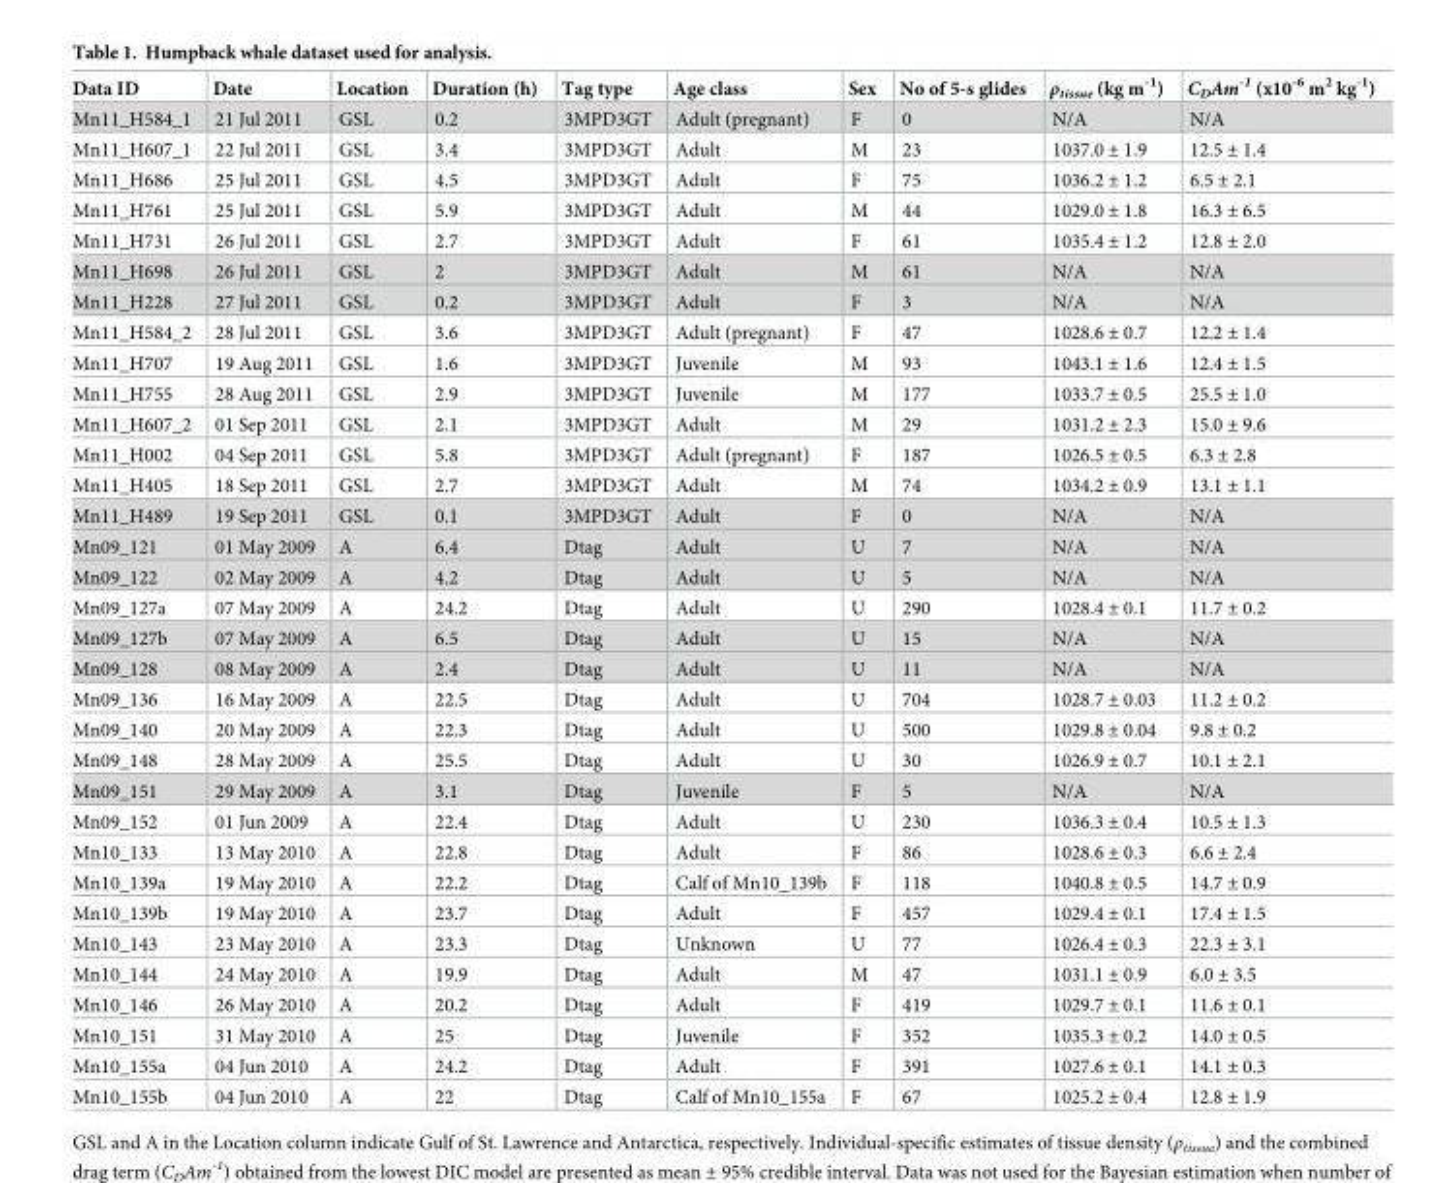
<table><thead><tr><td>Data ID</td><td>Date</td><td>Location</td><td>Duration (h)</td><td>Tag type</td><td>Age class</td><td>Sex</td><td>No of 5-s glides</td><td>ρ<sub>tissue</sub> (kg m<sup>-1</sup>)</td><td>C<sub>D</sub>Am<sup>-1</sup> (x10<sup>-6</sup> m<sup>2</sup> kg<sup>-1</sup>)</td></tr></thead><tbody><tr><td>Mn11_H584_1</td><td>21 Jul 2011</td><td>GSL</td><td>0.2</td><td>3MPD3GT</td><td>Adult (pregnant)</td><td>F</td><td>0</td><td>N/A</td><td>N/A</td></tr><tr><td>Mn11_H607_1</td><td>22 Jul 2011</td><td>GSL</td><td>3.4</td><td>3MPD3GT</td><td>Adult</td><td>M</td><td>23</td><td>1037.0 ± 1.9</td><td>12.5 ± 1.4</td></tr><tr><td>Mn11_H686</td><td>25 Jul 2011</td><td>GSL</td><td>4.5</td><td>3MPD3GT</td><td>Adult</td><td>F</td><td>75</td><td>1036.2 ± 1.2</td><td>6.5 ± 2.1</td></tr><tr><td>Mn11_H761</td><td>25 Jul 2011</td><td>GSL</td><td>5.9</td><td>3MPD3GT</td><td>Adult</td><td>M</td><td>44</td><td>1029.0 ± 1.8</td><td>16.3 ± 6.5</td></tr><tr><td>Mn11_H731</td><td>26 Jul 2011</td><td>GSL</td><td>2.7</td><td>3MPD3GT</td><td>Adult</td><td>F</td><td>61</td><td>1035.4 ± 1.2</td><td>12.8 ± 2.0</td></tr><tr><td>Mn11_H698</td><td>26 Jul 2011</td><td>GSL</td><td>2</td><td>3MPD3GT</td><td>Adult</td><td>M</td><td>61</td><td>N/A</td><td>N/A</td></tr><tr><td>Mn11_H228</td><td>27 Jul 2011</td><td>GSL</td><td>0.2</td><td>3MPD3GT</td><td>Adult</td><td>F</td><td>3</td><td>N/A</td><td>N/A</td></tr><tr><td>Mn11_H584_2</td><td>28 Jul 2011</td><td>GSL</td><td>3.6</td><td>3MPD3GT</td><td>Adult (pregnant)</td><td>F</td><td>47</td><td>1028.6 ± 0.7</td><td>12.2 ± 1.4</td></tr><tr><td>Mn11_H707</td><td>19 Aug 2011</td><td>GSL</td><td>1.6</td><td>3MPD3GT</td><td>Juvenile</td><td>M</td><td>93</td><td>1043.1 ± 1.6</td><td>12.4 ± 1.5</td></tr><tr><td>Mn11_H755</td><td>28 Aug 2011</td><td>GSL</td><td>2.9</td><td>3MPD3GT</td><td>Juvenile</td><td>M</td><td>177</td><td>1033.7 ± 0.5</td><td>25.5 ± 1.0</td></tr><tr><td>Mn11_H607_2</td><td>01 Sep 2011</td><td>GSL</td><td>2.1</td><td>3MPD3GT</td><td>Adult</td><td>M</td><td>29</td><td>1031.2 ± 2.3</td><td>15.0 ± 9.6</td></tr><tr><td>Mn11_H002</td><td>04 Sep 2011</td><td>GSL</td><td>5.8</td><td>3MPD3GT</td><td>Adult (pregnant)</td><td>F</td><td>187</td><td>1026.5 ± 0.5</td><td>6.3 ± 2.8</td></tr><tr><td>Mn11_H405</td><td>18 Sep 2011</td><td>GSL</td><td>2.7</td><td>3MPD3GT</td><td>Adult</td><td>M</td><td>74</td><td>1034.2 ± 0.9</td><td>13.1 ± 1.1</td></tr><tr><td>Mn11_H489</td><td>19 Sep 2011</td><td>GSL</td><td>0.1</td><td>3MPD3GT</td><td>Adult</td><td>F</td><td>0</td><td>N/A</td><td>N/A</td></tr><tr><td>Mn09_121</td><td>01 May 2009</td><td>A</td><td>6.4</td><td>Dtag</td><td>Adult</td><td>U</td><td>7</td><td>N/A</td><td>N/A</td></tr><tr><td>Mn09_122</td><td>02 May 2009</td><td>A</td><td>4.2</td><td>Dtag</td><td>Adult</td><td>U</td><td>5</td><td>N/A</td><td>N/A</td></tr><tr><td>Mn09_127a</td><td>07 May 2009</td><td>A</td><td>24.2</td><td>Dtag</td><td>Adult</td><td>U</td><td>290</td><td>1028.4 ± 0.1</td><td>11.7 ± 0.2</td></tr><tr><td>Mn09_127b</td><td>07 May 2009</td><td>A</td><td>6.5</td><td>Dtag</td><td>Adult</td><td>U</td><td>15</td><td>N/A</td><td>N/A</td></tr><tr><td>Mn09_128</td><td>08 May 2009</td><td>A</td><td>2.4</td><td>Dtag</td><td>Adult</td><td>U</td><td>11</td><td>N/A</td><td>N/A</td></tr><tr><td>Mn09_136</td><td>16 May 2009</td><td>A</td><td>22.5</td><td>Dtag</td><td>Adult</td><td>U</td><td>704</td><td>1028.7 ± 0.03</td><td>11.2 ± 0.2</td></tr><tr><td>Mn09_140</td><td>20 May 2009</td><td>A</td><td>22.3</td><td>Dtag</td><td>Adult</td><td>U</td><td>500</td><td>1029.8 ± 0.04</td><td>9.8 ± 0.2</td></tr><tr><td>Mn09_148</td><td>28 May 2009</td><td>A</td><td>25.5</td><td>Dtag</td><td>Adult</td><td>U</td><td>30</td><td>1026.9 ± 0.7</td><td>10.1 ± 2.1</td></tr><tr><td>Mn09_151</td><td>29 May 2009</td><td>A</td><td>3.1</td><td>Dtag</td><td>Juvenile</td><td>F</td><td>5</td><td>N/A</td><td>N/A</td></tr><tr><td>Mn09_152</td><td>01 Jun 2009</td><td>A</td><td>22.4</td><td>Dtag</td><td>Adult</td><td>U</td><td>230</td><td>1036.3 ± 0.4</td><td>10.5 ± 1.3</td></tr><tr><td>Mn10_133</td><td>13 May 2010</td><td>A</td><td>22.8</td><td>Dtag</td><td>Adult</td><td>F</td><td>86</td><td>1028.6 ± 0.3</td><td>6.6 ± 2.4</td></tr><tr><td>Mn10_139a</td><td>19 May 2010</td><td>A</td><td>22.2</td><td>Dtag</td><td>Calf of Mn10_139b</td><td>F</td><td>118</td><td>1040.8 ± 0.5</td><td>14.7 ± 0.9</td></tr><tr><td>Mn10_139b</td><td>19 May 2010</td><td>A</td><td>23.7</td><td>Dtag</td><td>Adult</td><td>F</td><td>457</td><td>1029.4 ± 0.1</td><td>17.4 ± 1.5</td></tr><tr><td>Mn10_143</td><td>23 May 2010</td><td>A</td><td>23.3</td><td>Dtag</td><td>Unknown</td><td>U</td><td>77</td><td>1026.4 ± 0.3</td><td>22.3 ± 3.1</td></tr><tr><td>Mn10_144</td><td>24 May 2010</td><td>A</td><td>19.9</td><td>Dtag</td><td>Adult</td><td>M</td><td>47</td><td>1031.1 ± 0.9</td><td>6.0 ± 3.5</td></tr><tr><td>Mn10_146</td><td>26 May 2010</td><td>A</td><td>20.2</td><td>Dtag</td><td>Adult</td><td>F</td><td>419</td><td>1029.7 ± 0.1</td><td>11.6 ± 0.1</td></tr><tr><td>Mn10_151</td><td>31 May 2010</td><td>A</td><td>25</td><td>Dtag</td><td>Juvenile</td><td>F</td><td>352</td><td>1035.3 ± 0.2</td><td>14.0 ± 0.5</td></tr><tr><td>Mn10_155a</td><td>04 Jun 2010</td><td>A</td><td>24.2</td><td>Dtag</td><td>Adult</td><td>F</td><td>391</td><td>1027.6 ± 0.1</td><td>14.1 ± 0.3</td></tr><tr><td>Mn10_155b</td><td>04 Jun 2010</td><td>A</td><td>22</td><td>Dtag</td><td>Calf of Mn10_155a</td><td>F</td><td>67</td><td>1025.2 ± 0.4</td><td>12.8 ± 1.9</td></tr></tbody></table>